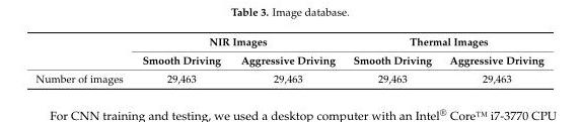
<table><thead><tr><td rowspan="2"></td><td colspan="2">NIR Images</td><td colspan="2">Thermal Images</td></tr><tr><td>Smooth Driving</td><td>Aggressive Driving</td><td>Smooth Driving</td><td>Aggressive Driving</td></tr></thead><tbody><tr><td>Number of images</td><td>29,463</td><td>29,463</td><td>29,463</td><td>29,463</td></tr></tbody></table>